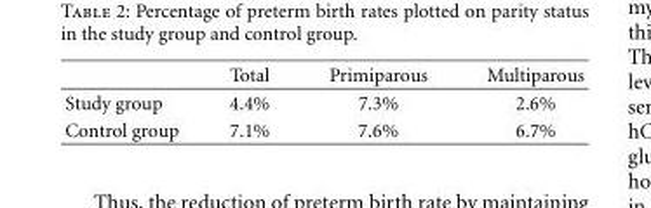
<table><thead><tr><td></td><td>Total</td><td>Primiparous</td><td>Multiparous</td></tr></thead><tbody><tr><td>Study group</td><td>4.4%</td><td>7.3%</td><td>2.6%</td></tr><tr><td>Control group</td><td>7.1%</td><td>7.6%</td><td>6.7%</td></tr></tbody></table>